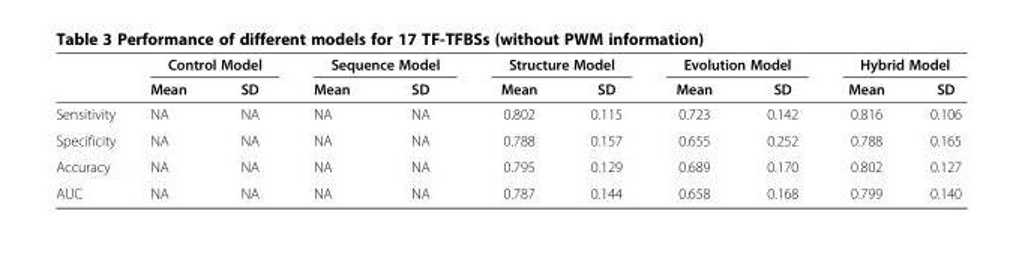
<table><thead><tr><td rowspan="2"></td><td colspan="2">Control Model</td><td colspan="2">Sequence Model</td><td colspan="2">Structure Model</td><td colspan="2">Evolution Model</td><td colspan="2">Hybrid Model</td></tr><tr><td>Mean</td><td>SD</td><td>Mean</td><td>SD</td><td>Mean</td><td>SD</td><td>Mean</td><td>SD</td><td>Mean</td><td>SD</td></tr></thead><tbody><tr><td>Sensitivity</td><td>NA</td><td>NA</td><td>NA</td><td>NA</td><td>0.802</td><td>0.115</td><td>0.723</td><td>0.142</td><td>0.816</td><td>0.106</td></tr><tr><td>Specificity</td><td>NA</td><td>NA</td><td>NA</td><td>NA</td><td>0.788</td><td>0.157</td><td>0.655</td><td>0.252</td><td>0.788</td><td>0.165</td></tr><tr><td>Accuracy</td><td>NA</td><td>NA</td><td>NA</td><td>NA</td><td>0.795</td><td>0.129</td><td>0.689</td><td>0.170</td><td>0.802</td><td>0.127</td></tr><tr><td>AUC</td><td>NA</td><td>NA</td><td>NA</td><td>NA</td><td>0.787</td><td>0.144</td><td>0.658</td><td>0.168</td><td>0.799</td><td>0.140</td></tr></tbody></table>